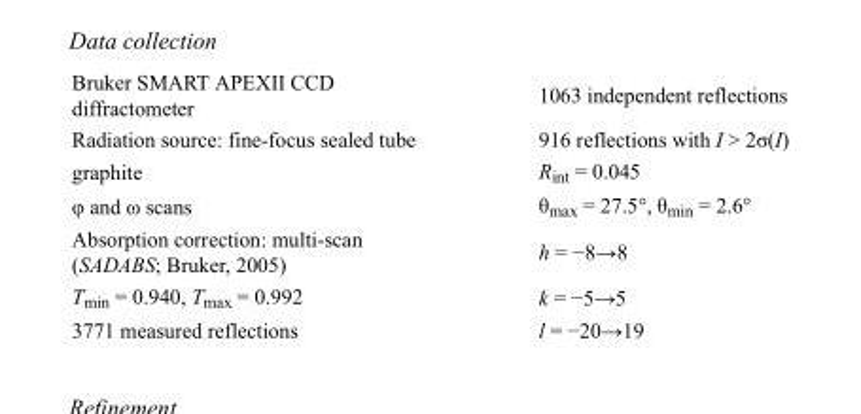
<table><tbody><tr><td>Bruker SMART APEXII CCD diffractometer</td><td>1063 independent reflections</td></tr><tr><td>Radiation source: fine-focus sealed tube</td><td>916 reflections with I &gt; 2σ(I)</td></tr><tr><td>graphite</td><td>R<sub>int</sub> = 0.045</td></tr><tr><td>φ and ω scans</td><td>θ<sub>max</sub> = 27.5°, θ<sub>min</sub> = 2.6°</td></tr><tr><td>Absorption correction: multi-scan (SADABS; Bruker, 2005)</td><td>h = −8→8</td></tr><tr><td>T<sub>min</sub> = 0.940, T<sub>max</sub> = 0.992</td><td>k = −5→5</td></tr><tr><td>3771 measured reflections</td><td>l = −20→19</td></tr></tbody></table>